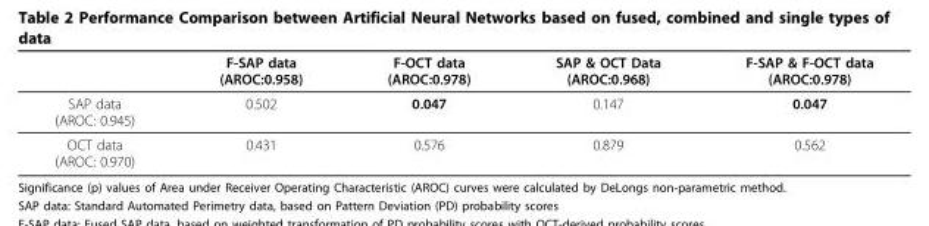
<table><thead><tr><td></td><td>F-SAP data (AROC:0.958)</td><td>F-OCT data (AROC:0.978)</td><td>SAP &amp; OCT Data (AROC:0.968)</td><td>F-SAP &amp; F-OCT data (AROC:0.978)</td></tr></thead><tbody><tr><td>SAP data (AROC: 0.945)</td><td>0.502</td><td>0.047</td><td>0.147</td><td>0.047</td></tr><tr><td>OCT data (AROC: 0.970)</td><td>0.431</td><td>0.576</td><td>0.879</td><td>0.562</td></tr></tbody></table>